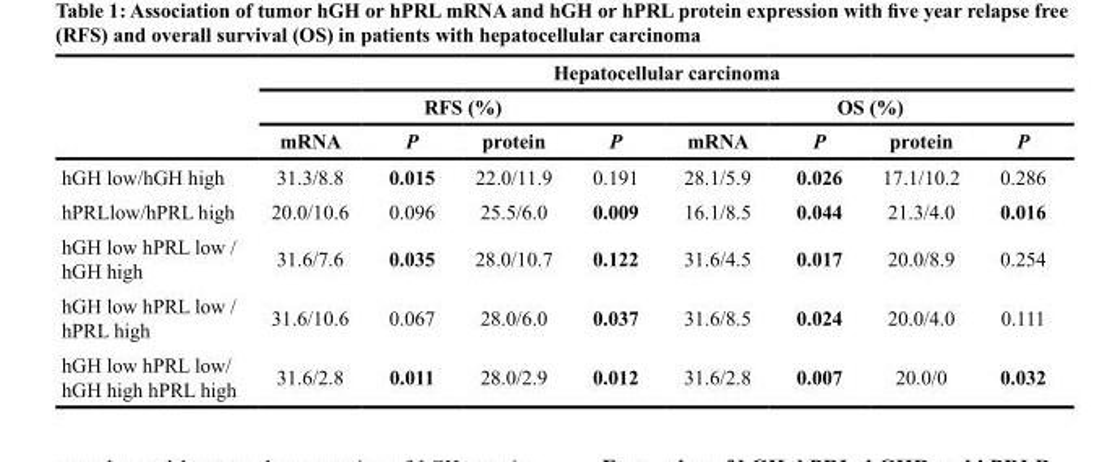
<table><thead><tr><td rowspan="3"></td><td colspan="8">Hepatocellular carcinoma</td></tr><tr><td colspan="4">RFS (%)</td><td colspan="4">OS (%)</td></tr><tr><td>mRNA</td><td>P</td><td>protein</td><td>P</td><td>mRNA</td><td>P</td><td>protein</td><td>P</td></tr></thead><tbody><tr><td>hGH low/hGH high</td><td>31.3/8.8</td><td>0.015</td><td>22.0/11.9</td><td>0.191</td><td>28.1/5.9</td><td>0.026</td><td>17.1/10.2</td><td>0.286</td></tr><tr><td>hPRLlow/hPRL high</td><td>20.0/10.6</td><td>0.096</td><td>25.5/6.0</td><td>0.009</td><td>16.1/8.5</td><td>0.044</td><td>21.3/4.0</td><td>0.016</td></tr><tr><td>hGH low hPRL low / hGH high</td><td>31.6/7.6</td><td>0.035</td><td>28.0/10.7</td><td>0.122</td><td>31.6/4.5</td><td>0.017</td><td>20.0/8.9</td><td>0.254</td></tr><tr><td>hGH low hPRL low / hPRL high</td><td>31.6/10.6</td><td>0.067</td><td>28.0/6.0</td><td>0.037</td><td>31.6/8.5</td><td>0.024</td><td>20.0/4.0</td><td>0.111</td></tr><tr><td>hGH low hPRL low/ hGH high hPRL high</td><td>31.6/2.8</td><td>0.011</td><td>28.0/2.9</td><td>0.012</td><td>31.6/2.8</td><td>0.007</td><td>20.0/0</td><td>0.032</td></tr></tbody></table>